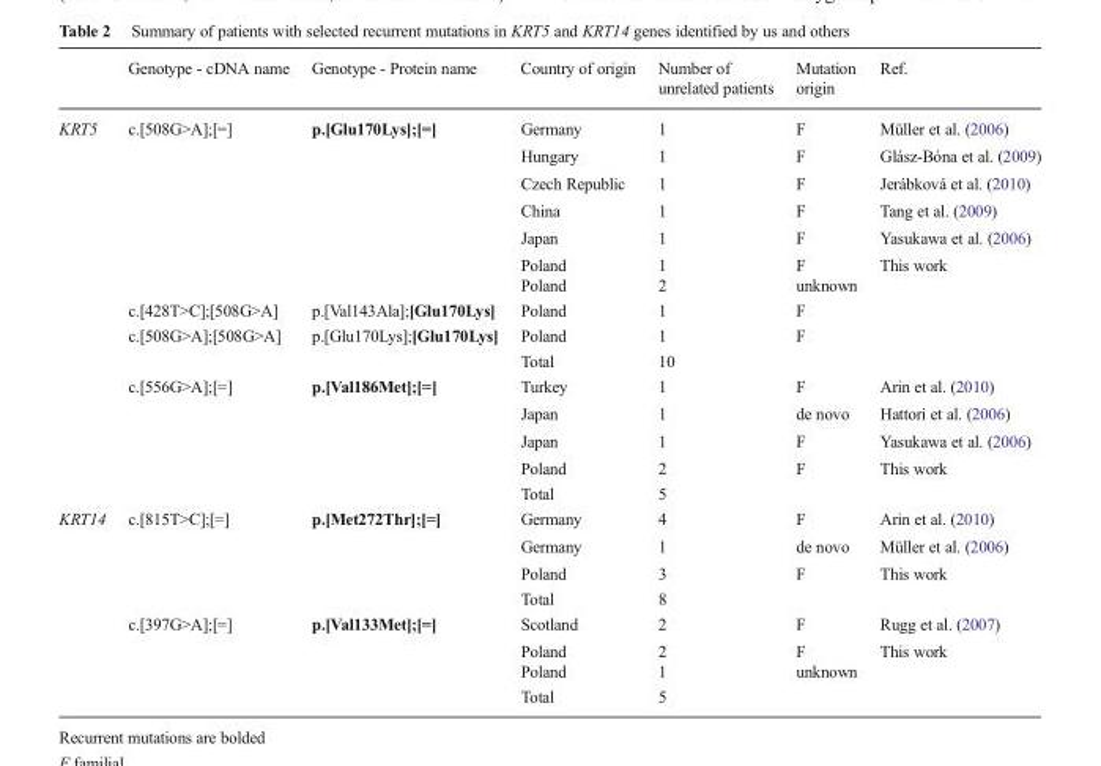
<table><thead><tr><td></td><td>Genotype - cDNA name</td><td>Genotype - Protein name</td><td>Country of origin</td><td>Number of unrelated patients</td><td>Mutation origin</td><td>Ref.</td></tr></thead><tbody><tr><td rowspan="15">KRT5</td><td rowspan="7">c.[508G&gt;A];[=]</td><td rowspan="7">p.[Glu170Lys];[=]</td><td>Germany</td><td>1</td><td>F</td><td>Müller et al. (2006)</td></tr><tr><td>Hungary</td><td>1</td><td>F</td><td>Glász-Bóna et al. (2009)</td></tr><tr><td>Czech Republic</td><td>1</td><td>F</td><td>Jerábková et al. (2010)</td></tr><tr><td>China</td><td>1</td><td>F</td><td>Tang et al. (2009)</td></tr><tr><td>Japan</td><td>1</td><td>F</td><td>Yasukawa et al. (2006)</td></tr><tr><td>Poland</td><td>1</td><td>F</td><td rowspan="4">This work</td></tr><tr><td>Poland</td><td>2</td><td>unknown</td></tr><tr><td>c.[428T&gt;C];[508G&gt;A]</td><td>p.[Val143Ala];[Glu170Lys]</td><td>Poland</td><td>1</td><td>F</td></tr><tr><td>c.[508G&gt;A];[508G&gt;A]</td><td>p.[Glu170Lys];[Glu170Lys]</td><td>Poland</td><td>1</td><td>F</td></tr><tr><td></td><td></td><td>Total</td><td>10</td><td></td><td></td></tr><tr><td rowspan="4">c.[556G&gt;A];[=]</td><td rowspan="4">p.[Val186Met];[=]</td><td>Turkey</td><td>1</td><td>F</td><td>Arin et al. (2010)</td></tr><tr><td>Japan</td><td>1</td><td>de novo</td><td>Hattori et al. (2006)</td></tr><tr><td>Japan</td><td>1</td><td>F</td><td>Yasukawa et al. (2006)</td></tr><tr><td>Poland</td><td>2</td><td>F</td><td>This work</td></tr><tr><td></td><td></td><td>Total</td><td>5</td><td></td><td></td></tr><tr><td rowspan="8">KRT14</td><td rowspan="3">c.[815T&gt;C];[=]</td><td rowspan="3">p.[Met272Thr];[=]</td><td>Germany</td><td>4</td><td>F</td><td>Arin et al. (2010)</td></tr><tr><td>Germany</td><td>1</td><td>de novo</td><td>Müller et al. (2006)</td></tr><tr><td>Poland</td><td>3</td><td>F</td><td>This work</td></tr><tr><td></td><td></td><td>Total</td><td>8</td><td></td><td></td></tr><tr><td rowspan="4">c.[397G&gt;A];[=]</td><td rowspan="4">p.[Val133Met];[=]</td><td>Scotland</td><td>2</td><td>F</td><td>Rugg et al. (2007)</td></tr><tr><td>Poland</td><td>2</td><td>F</td><td rowspan="2">This work</td></tr><tr><td>Poland</td><td>1</td><td>unknown</td></tr><tr><td>Total</td><td>5</td><td></td><td></td></tr></tbody></table>